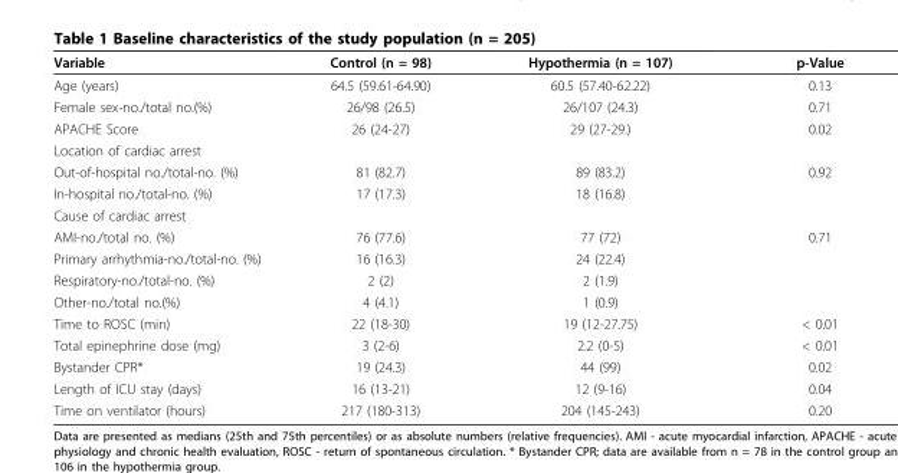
<table><thead><tr><td>Variable</td><td>Control (n = 98)</td><td>Hypothermia (n = 107)</td><td>p-Value</td></tr></thead><tbody><tr><td>Age (years)</td><td>64.5 (59.61-64.90)</td><td>60.5 (57.40-62.22)</td><td>0.13</td></tr><tr><td>Female sex-no./total no.(%)</td><td>26/98 (26.5)</td><td>26/107 (24.3)</td><td>0.71</td></tr><tr><td>APACHE Score</td><td>26 (24-27)</td><td>29 (27-29.)</td><td>0.02</td></tr><tr><td colspan="4">Location of cardiac arrest</td></tr><tr><td>Out-of-hospital no./total-no. (%)</td><td>81 (82.7)</td><td>89 (83.2)</td><td>0.92</td></tr><tr><td>In-hospital no./total-no. (%)</td><td>17 (17.3)</td><td>18 (16.8)</td><td></td></tr><tr><td colspan="4">Cause of cardiac arrest</td></tr><tr><td>AMI-no./total no. (%)</td><td>76 (77.6)</td><td>77 (72)</td><td>0.71</td></tr><tr><td>Primary arrhythmia-no./total-no. (%)</td><td>16 (16.3)</td><td>24 (22.4)</td><td></td></tr><tr><td>Respiratory-no./total-no. (%)</td><td>2 (2)</td><td>2 (1.9)</td><td></td></tr><tr><td>Other-no./total no.(%)</td><td>4 (4.1)</td><td>1 (0.9)</td><td></td></tr><tr><td>Time to ROSC (min)</td><td>22 (18-30)</td><td>19 (12-27.75)</td><td>&lt; 0.01</td></tr><tr><td>Total epinephrine dose (mg)</td><td>3 (2-6)</td><td>2.2 (0-5)</td><td>&lt; 0.01</td></tr><tr><td>Bystander CPR*</td><td>19 (24.3)</td><td>44 (99)</td><td>0.02</td></tr><tr><td>Length of ICU stay (days)</td><td>16 (13-21)</td><td>12 (9-16)</td><td>0.04</td></tr><tr><td>Time on ventilator (hours)</td><td>217 (180-313)</td><td>204 (145-243)</td><td>0.20</td></tr></tbody></table>